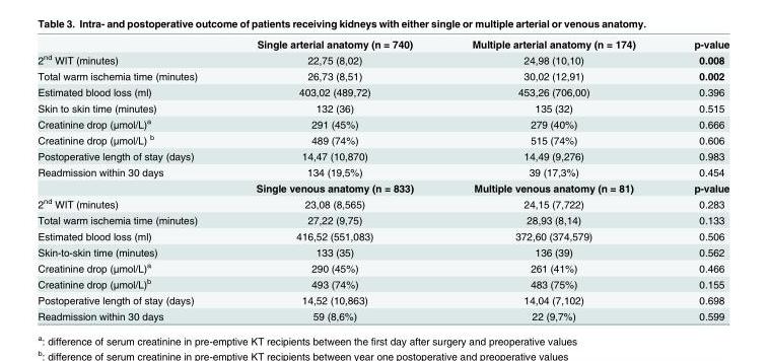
<table><thead><tr><td></td><td>Single arterial anatomy (n = 740)</td><td>Multiple arterial anatomy (n = 174)</td><td>p-value</td></tr></thead><tbody><tr><td>2<sup>nd</sup> WIT (minutes)</td><td>22,75 (8,02)</td><td>24,98 (10,10)</td><td>0.008</td></tr><tr><td>Total warm ischemia time (minutes)</td><td>26,73 (8,51)</td><td>30,02 (12,91)</td><td>0.002</td></tr><tr><td>Estimated blood loss (ml)</td><td>403,02 (489,72)</td><td>453,26 (706,00)</td><td>0.396</td></tr><tr><td>Skin to skin time (minutes)</td><td>132 (36)</td><td>135 (32)</td><td>0.515</td></tr><tr><td>Creatinine drop (μmol/L)<sup>a</sup></td><td>291 (45%)</td><td>279 (40%)</td><td>0.666</td></tr><tr><td>Creatinine drop (μmol/L) <sup>b</sup></td><td>489 (74%)</td><td>515 (74%)</td><td>0.606</td></tr><tr><td>Postoperative length of stay (days)</td><td>14,47 (10,870)</td><td>14,49 (9,276)</td><td>0.983</td></tr><tr><td rowspan="2">Readmission within 30 days</td><td>134 (19,5%)</td><td>39 (17,3%)</td><td>0.454</td></tr><tr><td>Single venous anatomy (n = 833)</td><td>Multiple venous anatomy (n = 81)</td><td>p-value</td></tr><tr><td>2<sup>nd</sup> WIT (minutes)</td><td>23,08 (8,565)</td><td>24,15 (7,722)</td><td>0.283</td></tr><tr><td>Total warm ischemia time (minutes)</td><td>27,22 (9,75)</td><td>28,93 (8,14)</td><td>0.133</td></tr><tr><td>Estimated blood loss (ml)</td><td>416,52 (551,083)</td><td>372,60 (374,579)</td><td>0.506</td></tr><tr><td>Skin-to-skin time (minutes)</td><td>133 (35)</td><td>136 (39)</td><td>0.562</td></tr><tr><td>Creatinine drop (μmol/L)<sup>a</sup></td><td>290 (45%)</td><td>261 (41%)</td><td>0.466</td></tr><tr><td>Creatinine drop (μmol/L)<sup>b</sup></td><td>493 (74%)</td><td>483 (75%)</td><td>0.155</td></tr><tr><td>Postoperative length of stay (days)</td><td>14,52 (10,863)</td><td>14,04 (7,102)</td><td>0.698</td></tr><tr><td>Readmission within 30 days</td><td>59 (8,6%)</td><td>22 (9,7%)</td><td>0.599</td></tr></tbody></table>